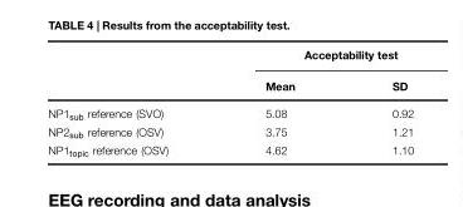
<table><thead><tr><td rowspan="2"></td><td colspan="2">Acceptability test</td></tr><tr><td>Mean</td><td>SD</td></tr></thead><tbody><tr><td>NP1<sub>sub</sub> reference (SVO)</td><td>5.08</td><td>0.92</td></tr><tr><td>NP2<sub>sub</sub> reference (OSV)</td><td>3.75</td><td>1.21</td></tr><tr><td>NP1<sub>topic</sub> reference (OSV)</td><td>4.62</td><td>1.10</td></tr></tbody></table>